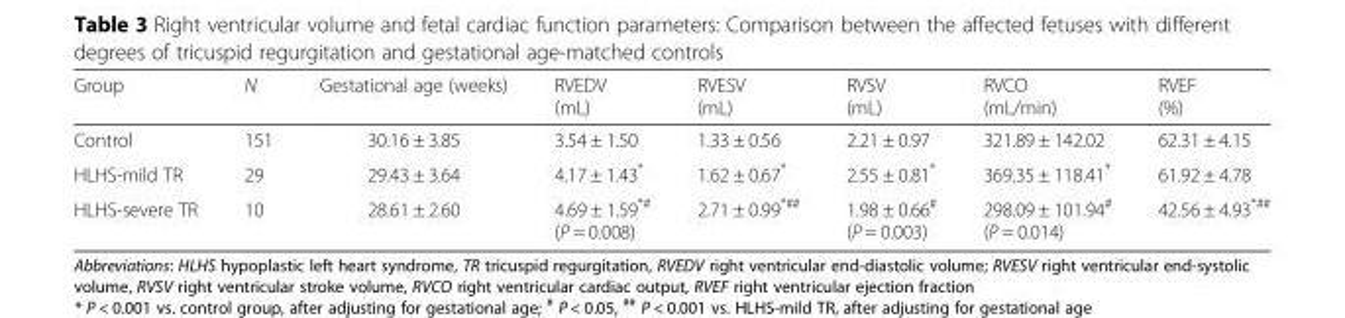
<table><thead><tr><td>Group</td><td>N</td><td>Gestational age (weeks)</td><td>RVEDV (mL)</td><td>RVESV (mL)</td><td>RVSV (mL)</td><td>RVCO (mL/min)</td><td>RVEF (%)</td></tr></thead><tbody><tr><td>Control</td><td>151</td><td>30.16 ± 3.85</td><td>3.54 ± 1.50</td><td>1.33 ± 0.56</td><td>2.21 ± 0.97</td><td>321.89 ± 142.02</td><td>62.31 ± 4.15</td></tr><tr><td>HLHS-mild TR</td><td>29</td><td>29.43 ± 3.64</td><td>4.17 ± 1.43*</td><td>1.62 ± 0.67*</td><td>2.55 ± 0.81*</td><td>369.35 ± 118.41*</td><td>61.92 ± 4.78</td></tr><tr><td>HLHS-severe TR</td><td>10</td><td>28.61 ± 2.60</td><td>4.69 ± 1.59<sup>*#</sup> (P = 0.008)</td><td>2.71 ± 0.99<sup>*##</sup></td><td>1.98 ± 0.66<sup>#</sup> (P = 0.003)</td><td>298.09 ± 101.94<sup>#</sup> (P = 0.014)</td><td>42.56 ± 4.93<sup>*##</sup></td></tr></tbody></table>